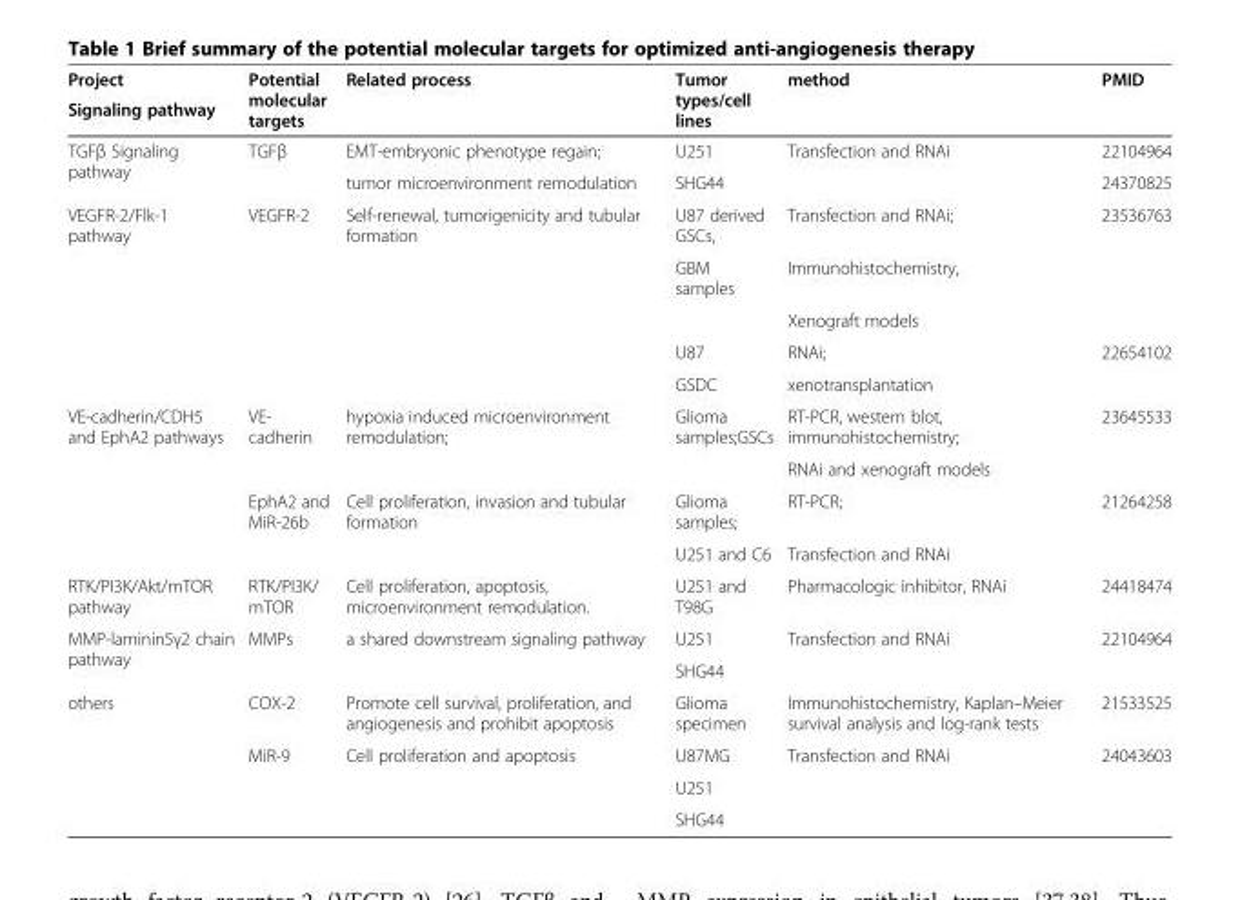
<table><thead><tr><td rowspan="2">Project Signaling pathway</td><td rowspan="2">Potential molecular targets</td><td rowspan="2">Related process</td><td rowspan="2">Tumor types/cell lines</td><td rowspan="2">method</td><td rowspan="2">PMID</td></tr><tr></tr></thead><tbody><tr><td rowspan="2">TGFβ Signaling pathway</td><td rowspan="2">TGFβ</td><td>EMT-embryonic phenotype regain;</td><td>U251</td><td rowspan="2">Transfection and RNAi</td><td>22104964</td></tr><tr><td>tumor microenvironment remodulation</td><td>SHG44</td><td>24370825</td></tr><tr><td rowspan="5">VEGFR-2/Flk-1 pathway</td><td rowspan="5">VEGFR-2</td><td rowspan="5">Self-renewal, tumorigenicity and tubular formation</td><td>U87 derived GSCs,</td><td>Transfection and RNAi;</td><td rowspan="3">23536763</td></tr><tr><td>GBM samples</td><td>Immunohistochemistry,</td></tr><tr><td></td><td>Xenograft models</td></tr><tr><td>U87</td><td>RNAi;</td><td rowspan="2">22654102</td></tr><tr><td>GSDC</td><td>xenotransplantation</td></tr><tr><td rowspan="4">VE-cadherin/CDH5 and EphA2 pathways</td><td rowspan="2">VE- cadherin</td><td rowspan="2">hypoxia induced microenvironment remodulation;</td><td rowspan="2">Glioma samples;GSCs</td><td>RT-PCR, western blot, immunohistochemistry;</td><td rowspan="2">23645533</td></tr><tr><td>RNAi and xenograft models</td></tr><tr><td rowspan="2">EphA2 and MiR-26b</td><td rowspan="2">Cell proliferation, invasion and tubular formation</td><td>Glioma samples;</td><td>RT-PCR;</td><td rowspan="2">21264258</td></tr><tr><td>U251 and C6</td><td>Transfection and RNAi</td></tr><tr><td>RTK/PI3K/Akt/mTOR pathway</td><td>RTK/PI3K/ mTOR</td><td>Cell proliferation, apoptosis, microenvironment remodulation.</td><td>U251 and T98G</td><td>Pharmacologic inhibitor, RNAi</td><td>24418474</td></tr><tr><td rowspan="2">MMP-laminin5γ2 chain pathway</td><td rowspan="2">MMPs</td><td rowspan="2">a shared downstream signaling pathway</td><td>U251</td><td rowspan="2">Transfection and RNAi</td><td rowspan="2">22104964</td></tr><tr><td>SHG44</td></tr><tr><td rowspan="4">others</td><td>COX-2</td><td>Promote cell survival, proliferation, and angiogenesis and prohibit apoptosis</td><td>Glioma specimen</td><td>Immunohistochemistry, Kaplan–Meier survival analysis and log-rank tests</td><td>21533525</td></tr><tr><td rowspan="3">MiR-9</td><td rowspan="3">Cell proliferation and apoptosis</td><td>U87MG</td><td rowspan="3">Transfection and RNAi</td><td rowspan="3">24043603</td></tr><tr><td>U251</td></tr><tr><td>SHG44</td></tr></tbody></table>